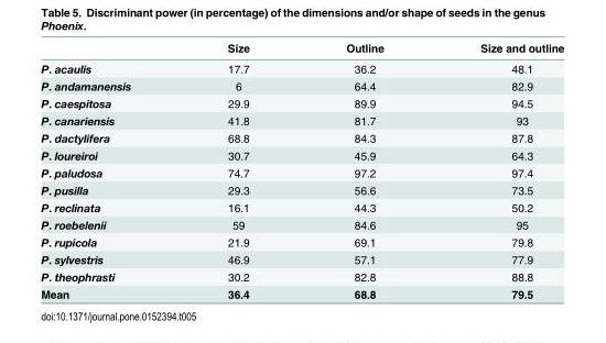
<table><thead><tr><td></td><td>Size</td><td>Outline</td><td>Size and outline</td></tr></thead><tbody><tr><td>P. acaulis</td><td>17.7</td><td>36.2</td><td>48.1</td></tr><tr><td>P. andamanensis</td><td>6</td><td>64.4</td><td>82.9</td></tr><tr><td>P. caespitosa</td><td>29.9</td><td>89.9</td><td>94.5</td></tr><tr><td>P. canariensis</td><td>41.8</td><td>81.7</td><td>93</td></tr><tr><td>P. dactylifera</td><td>68.8</td><td>84.3</td><td>87.8</td></tr><tr><td>P. loureiroi</td><td>30.7</td><td>45.9</td><td>64.3</td></tr><tr><td>P. paludosa</td><td>74.7</td><td>97.2</td><td>97.4</td></tr><tr><td>P. pusilla</td><td>29.3</td><td>56.6</td><td>73.5</td></tr><tr><td>P. reclinata</td><td>16.1</td><td>44.3</td><td>50.2</td></tr><tr><td>P. roebelenii</td><td>59</td><td>84.6</td><td>95</td></tr><tr><td>P. rupicola</td><td>21.9</td><td>69.1</td><td>79.8</td></tr><tr><td>P. sylvestris</td><td>46.9</td><td>57.1</td><td>77.9</td></tr><tr><td>P. theophrasti</td><td>30.2</td><td>82.8</td><td>88.8</td></tr><tr><td>Mean</td><td>36.4</td><td>68.8</td><td>79.5</td></tr></tbody></table>